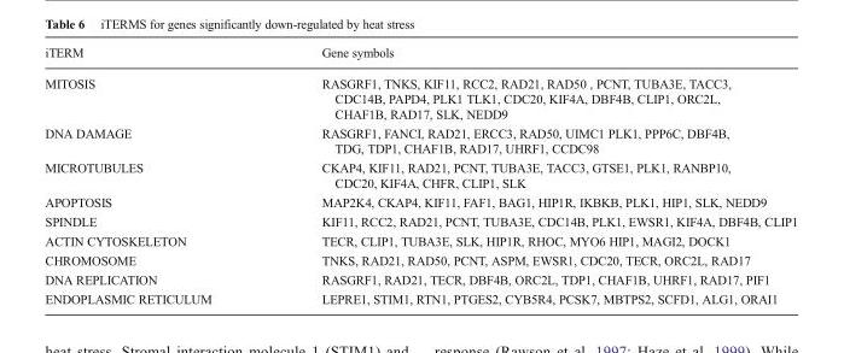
<table><thead><tr><td>iTERM</td><td>Gene symbols</td></tr></thead><tbody><tr><td>MITOSIS</td><td>RASGRF1, TNKS, KIF11, RCC2, RAD21, RAD50 , PCNT, TUBA3E, TACC3, CDC14B, PAPD4, PLK1 TLK1, CDC20, KIF4A, DBF4B, CLIP1, ORC2L, CHAF1B, RAD17, SLK, NEDD9</td></tr><tr><td>DNA DAMAGE</td><td>RASGRF1, FANCI, RAD21, ERCC3, RAD50, UIMC1 PLK1, PPP6C, DBF4B, TDG, TDP1, CHAF1B, RAD17, UHRF1, CCDC98</td></tr><tr><td>MICROTUBULES</td><td>CKAP4, KIF11, RAD21, PCNT, TUBA3E, TACC3, GTSE1, PLK1, RANBP10, CDC20, KIF4A, CHFR, CLIP1, SLK</td></tr><tr><td>APOPTOSIS</td><td>MAP2K4, CKAP4, KIF11, FAF1, BAG1, HIP1R, IKBKB, PLK1, HIP1, SLK, NEDD9</td></tr><tr><td>SPINDLE</td><td>KIF11, RCC2, RAD21, PCNT, TUBA3E, CDC14B, PLK1, EWSR1, KIF4A, DBF4B, CLIP1</td></tr><tr><td>ACTIN CYTOSKELETON</td><td>TECR, CLIP1, TUBA3E, SLK, HIP1R, RHOC, MYO6 HIP1, MAGI2, DOCK1</td></tr><tr><td>CHROMOSOME</td><td>TNKS, RAD21, RAD50, PCNT, ASPM, EWSR1, CDC20, TECR, ORC2L, RAD17</td></tr><tr><td>DNA REPLICATION</td><td>RASGRF1, RAD21, TECR, DBF4B, ORC2L, TDP1, CHAF1B, UHRF1, RAD17, PIF1</td></tr><tr><td>ENDOPLASMIC RETICULUM</td><td>LEPRE1, STIM1, RTN1, PTGES2, CYB5R4, PCSK7, MBTPS2, SCFD1, ALG1, ORAI1</td></tr></tbody></table>